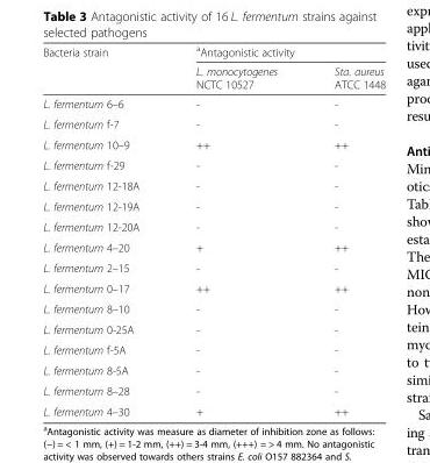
<table><thead><tr><td rowspan="2">Bacteria strain</td><td colspan="2"><sup>a</sup>Antagonistic activity</td></tr><tr><td>L. monocytogenes NCTC 10527</td><td>Sta. aureus ATCC 1448</td></tr></thead><tbody><tr><td>L. fermentum 6–6</td><td>-</td><td>-</td></tr><tr><td>L. fermentum f-7</td><td>-</td><td>-</td></tr><tr><td>L. fermentum 10–9</td><td>++</td><td>++</td></tr><tr><td>L. fermentum f-29</td><td>-</td><td>-</td></tr><tr><td>L. fermentum 12-18A</td><td>-</td><td>-</td></tr><tr><td>L. fermentum 12-19A</td><td>-</td><td>-</td></tr><tr><td>L. fermentum 12-20A</td><td>-</td><td>-</td></tr><tr><td>L. fermentum 4–20</td><td>+</td><td>++</td></tr><tr><td>L. fermentum 2–15</td><td>-</td><td>-</td></tr><tr><td>L. fermentum 0–17</td><td>++</td><td>++</td></tr><tr><td>L. fermentum 8–10</td><td>-</td><td>-</td></tr><tr><td>L. fermentum 0-25A</td><td>-</td><td>-</td></tr><tr><td>L. fermentum f-5A</td><td>-</td><td>-</td></tr><tr><td>L. fermentum 8-5A</td><td>-</td><td>-</td></tr><tr><td>L. fermentum 8–28</td><td>-</td><td>-</td></tr><tr><td>L. fermentum 4–30</td><td>+</td><td>++</td></tr></tbody></table>